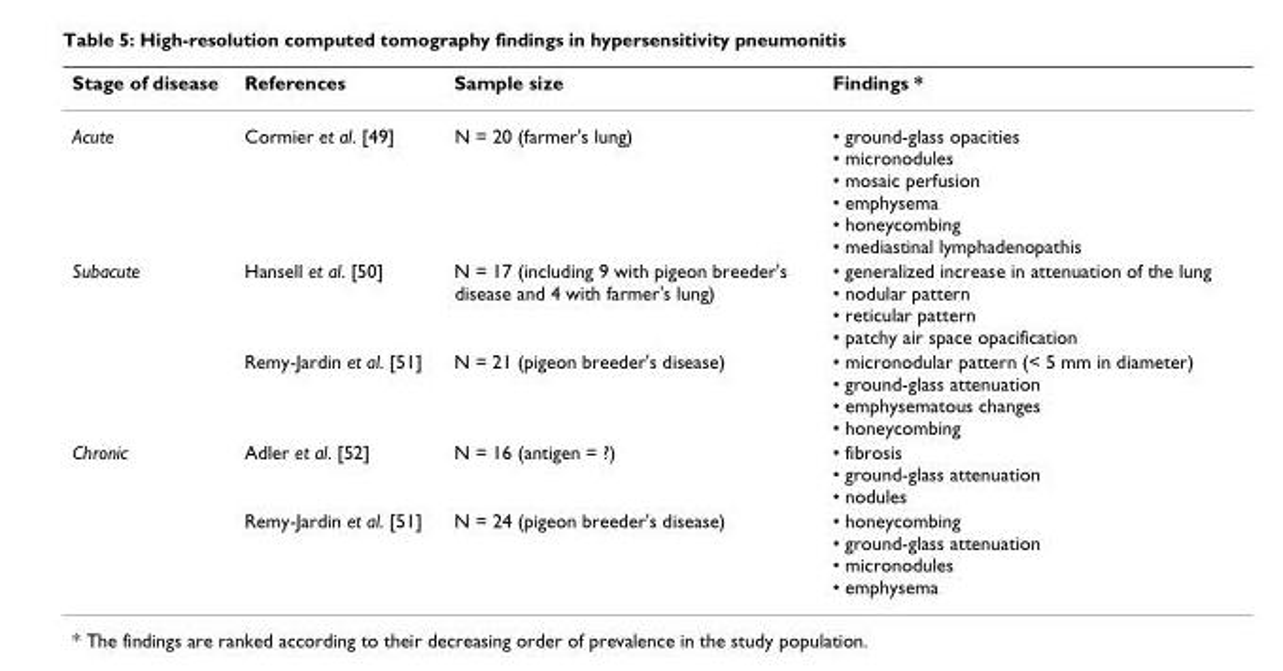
<table><thead><tr><td>Stage of disease</td><td>References</td><td>Sample size</td><td>Findings *</td></tr></thead><tbody><tr><td>Acute</td><td>Cormier et al. [49]</td><td>N = 20 (farmer&#x27;s lung)</td><td>• ground-glass opacities • micronodules • mosaic perfusion • emphysema • honeycombing • mediastinal lymphadenopathis</td></tr><tr><td rowspan="2">Subacute</td><td>Hansell et al. [50]</td><td>N = 17 (including 9 with pigeon breeder&#x27;s disease and 4 with farmer&#x27;s lung)</td><td>• generalized increase in attenuation of the lung • nodular pattern • reticular pattern • patchy air space opacification</td></tr><tr><td>Remy-Jardin et al. [51]</td><td>N = 21 (pigeon breeder&#x27;s disease)</td><td>• micronodular pattern (&lt; 5 mm in diameter) • ground-glass attenuation • emphysematous changes • honeycombing</td></tr><tr><td rowspan="2">Chronic</td><td>Adler et al. [52]</td><td>N = 16 (antigen = ?)</td><td>• fibrosis • ground-glass attenuation • nodules</td></tr><tr><td>Remy-Jardin et al. [51]</td><td>N = 24 (pigeon breeder&#x27;s disease)</td><td>• honeycombing • ground-glass attenuation • micronodules • emphysema</td></tr></tbody></table>